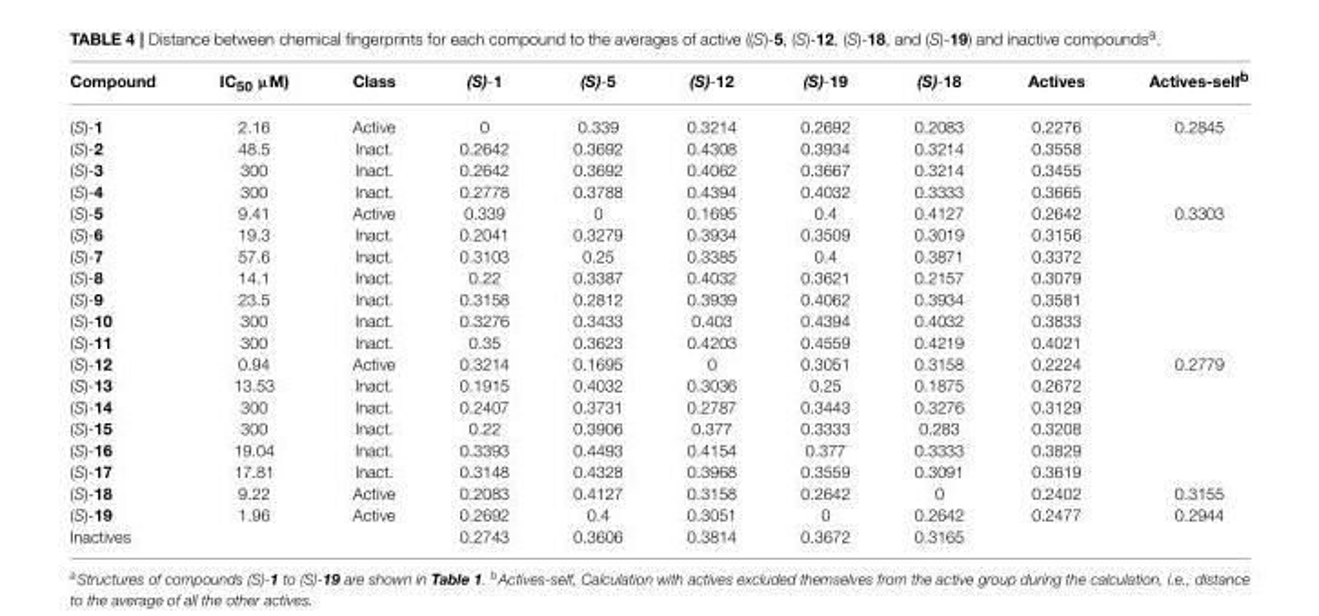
<table><thead><tr><td>Compound</td><td>IC<sub>50</sub> µM)</td><td>Class</td><td>(S)-1</td><td>(S)-5</td><td>(S)-12</td><td>(S)-19</td><td>(S)-18</td><td>Actives</td><td>Actives-self<sup>b</sup></td></tr></thead><tbody><tr><td>(S)-1</td><td>2.16</td><td>Active</td><td>0</td><td>0.339</td><td>0.3214</td><td>0.2692</td><td>0.2083</td><td>0.2276</td><td>0.2845</td></tr><tr><td>(S)-2</td><td>48.5</td><td>Inact.</td><td>0.2642</td><td>0.3692</td><td>0.4308</td><td>0.3934</td><td>0.3214</td><td>0.3558</td><td></td></tr><tr><td>(S)-3</td><td>300</td><td>Inact.</td><td>0.2642</td><td>0.3692</td><td>0.4062</td><td>0.3667</td><td>0.3214</td><td>0.3455</td><td></td></tr><tr><td>(S)-4</td><td>300</td><td>Inact.</td><td>0.2778</td><td>0.3788</td><td>0.4394</td><td>0.4032</td><td>0.3333</td><td>0.3665</td><td></td></tr><tr><td>(S)-5</td><td>9.41</td><td>Active</td><td>0.339</td><td>0</td><td>0.1695</td><td>0.4</td><td>0.4127</td><td>0.2642</td><td>0.3303</td></tr><tr><td>(S)-6</td><td>19.3</td><td>Inact.</td><td>0.2041</td><td>0.3279</td><td>0.3934</td><td>0.3509</td><td>0.3019</td><td>0.3156</td><td></td></tr><tr><td>(S)-7</td><td>57.6</td><td>Inact.</td><td>0.3103</td><td>0.25</td><td>0.3385</td><td>0.4</td><td>0.3871</td><td>0.3372</td><td></td></tr><tr><td>(S)-8</td><td>14.1</td><td>Inact.</td><td>0.22</td><td>0.3387</td><td>0.4032</td><td>0.3621</td><td>0.2157</td><td>0.3079</td><td></td></tr><tr><td>(S)-9</td><td>23.5</td><td>Inact.</td><td>0.3158</td><td>0.2812</td><td>0.3939</td><td>0.4062</td><td>0.3934</td><td>0.3581</td><td></td></tr><tr><td>(S)-10</td><td>300</td><td>Inact.</td><td>0.3276</td><td>0.3433</td><td>0.403</td><td>0.4394</td><td>0.4032</td><td>0.3833</td><td></td></tr><tr><td>(S)-11</td><td>300</td><td>Inact.</td><td>0.35</td><td>0.3623</td><td>0.4203</td><td>0.4559</td><td>0.4219</td><td>0.4021</td><td></td></tr><tr><td>(S)-12</td><td>0.94</td><td>Active</td><td>0.3214</td><td>0.1695</td><td>0</td><td>0.3051</td><td>0.3158</td><td>0.2224</td><td>0.2779</td></tr><tr><td>(S)-13</td><td>13.53</td><td>Inact.</td><td>0.1915</td><td>0.4032</td><td>0.3036</td><td>0.25</td><td>0.1875</td><td>0.2672</td><td></td></tr><tr><td>(S)-14</td><td>300</td><td>Inact.</td><td>0.2407</td><td>0.3731</td><td>0.2787</td><td>0.3443</td><td>0.3276</td><td>0.3129</td><td></td></tr><tr><td>(S)-15</td><td>300</td><td>Inact.</td><td>0.22</td><td>0.3906</td><td>0.377</td><td>0.3333</td><td>0.283</td><td>0.3208</td><td></td></tr><tr><td>(S)-16</td><td>19.04</td><td>Inact.</td><td>0.3393</td><td>0.4493</td><td>0.4154</td><td>0.377</td><td>0.3333</td><td>0.3829</td><td></td></tr><tr><td>(S)-17</td><td>17.81</td><td>Inact.</td><td>0.3148</td><td>0.4328</td><td>0.3968</td><td>0.3559</td><td>0.3091</td><td>0.3619</td><td></td></tr><tr><td>(S)-18</td><td>9.22</td><td>Active</td><td>0.2083</td><td>0.4127</td><td>0.3158</td><td>0.2642</td><td>0</td><td>0.2402</td><td>0.3155</td></tr><tr><td>(S)-19</td><td>1.96</td><td>Active</td><td>0.2692</td><td>0.4</td><td>0.3051</td><td>0</td><td>0.2642</td><td>0.2477</td><td>0.2944</td></tr><tr><td>Inactives</td><td></td><td></td><td>0.2743</td><td>0.3606</td><td>0.3814</td><td>0.3672</td><td>0.3165</td><td></td><td></td></tr></tbody></table>